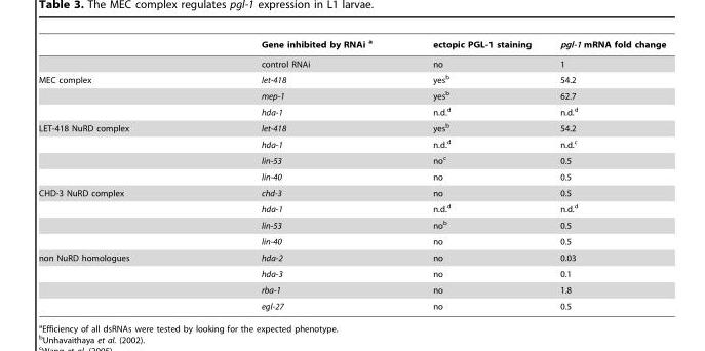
<table><thead><tr><td></td><td>Gene inhibited by RNAi a</td><td>ectopic PGL-1 staining</td><td>pgl-1 mRNA fold change</td></tr></thead><tbody><tr><td></td><td>control RNAi</td><td>no</td><td>1</td></tr><tr><td rowspan="3">MEC complex</td><td>let-418</td><td>yes<sup>b</sup></td><td>54.2</td></tr><tr><td>mep-1</td><td>yes<sup>b</sup></td><td>62.7</td></tr><tr><td>hda-1</td><td>n.d.<sup>d</sup></td><td>n.d.<sup>d</sup></td></tr><tr><td rowspan="4">LET-418 NuRD complex</td><td>let-418</td><td>yes<sup>b</sup></td><td>54.2</td></tr><tr><td>hda-1</td><td>n.d.<sup>d</sup></td><td>n.d.<sup>c</sup></td></tr><tr><td>lin-53</td><td>no<sup>c</sup></td><td>0.5</td></tr><tr><td>lin-40</td><td>no</td><td>0.5</td></tr><tr><td rowspan="4">CHD-3 NuRD complex</td><td>chd-3</td><td>no</td><td>0.5</td></tr><tr><td>hda-1</td><td>n.d.<sup>d</sup></td><td>n.d.<sup>d</sup></td></tr><tr><td>lin-53</td><td>no<sup>b</sup></td><td>0.5</td></tr><tr><td>lin-40</td><td>no</td><td>0.5</td></tr><tr><td rowspan="4">non NuRD homologues</td><td>hda-2</td><td>no</td><td>0.03</td></tr><tr><td>hda-3</td><td>no</td><td>0.1</td></tr><tr><td>rba-1</td><td>no</td><td>1.8</td></tr><tr><td>egl-27</td><td>no</td><td>0.5</td></tr></tbody></table>